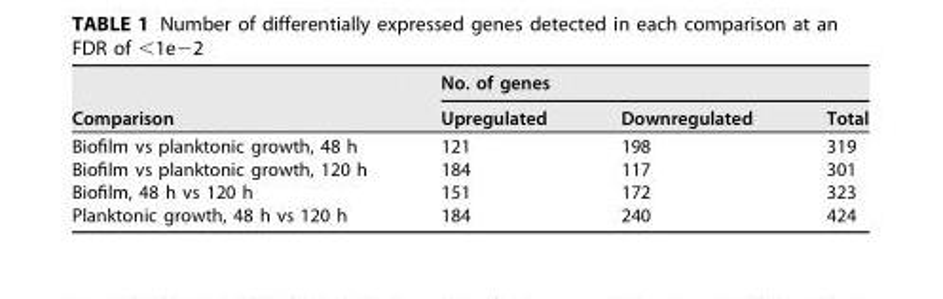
<table><thead><tr><td rowspan="2">Comparison</td><td colspan="3">No. of genes</td></tr><tr><td>Upregulated</td><td>Downregulated</td><td>Total</td></tr></thead><tbody><tr><td>Biofilm vs planktonic growth, 48 h</td><td>121</td><td>198</td><td>319</td></tr><tr><td>Biofilm vs planktonic growth, 120 h</td><td>184</td><td>117</td><td>301</td></tr><tr><td>Biofilm, 48 h vs 120 h</td><td>151</td><td>172</td><td>323</td></tr><tr><td>Planktonic growth, 48 h vs 120 h</td><td>184</td><td>240</td><td>424</td></tr></tbody></table>